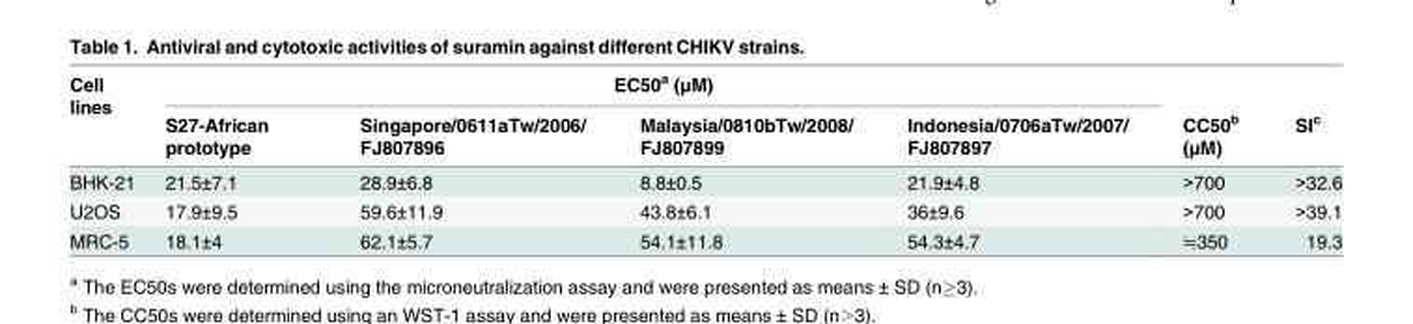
<table><thead><tr><td rowspan="2">Cell lines</td><td colspan="4">EC50<sup>a</sup> (μM)</td><td rowspan="2">CC50<sup>b</sup> (μM)</td><td rowspan="2">SI<sup>c</sup></td></tr><tr><td>S27-African prototype</td><td>Singapore/0611aTw/2006/ FJ807896</td><td>Malaysia/0810bTw/2008/ FJ807899</td><td>Indonesia/0706aTw/2007/ FJ807897</td></tr></thead><tbody><tr><td>BHK-21</td><td>21.5±7.1</td><td>28.9±6.8</td><td>8.8±0.5</td><td>21.9±4.8</td><td>&gt;700</td><td>&gt;32.6</td></tr><tr><td>U2OS</td><td>17.9±9.5</td><td>59.6±11.9</td><td>43.8±6.1</td><td>36±9.6</td><td>&gt;700</td><td>&gt;39.1</td></tr><tr><td>MRC-5</td><td>18.1±4</td><td>62.1±5.7</td><td>54.1±11.8</td><td>54.3±4.7</td><td>≒350</td><td>19.3</td></tr></tbody></table>